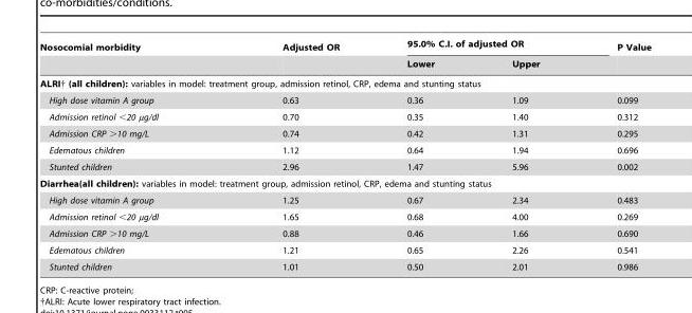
<table><thead><tr><td rowspan="2">Nosocomial morbidity</td><td rowspan="2">Adjusted OR</td><td colspan="2">95.0% C.I. of adjusted OR</td><td rowspan="2">P Value</td></tr><tr><td>Lower</td><td>Upper</td></tr></thead><tbody><tr><td colspan="5">ALRI† (all children): variables in model: treatment group, admission retinol, CRP, edema and stunting status</td></tr><tr><td>High dose vitamin A group</td><td>0.63</td><td>0.36</td><td>1.09</td><td>0.099</td></tr><tr><td>Admission retinol &lt;20 µg/dl</td><td>0.70</td><td>0.35</td><td>1.40</td><td>0.312</td></tr><tr><td>Admission CRP &gt;10 mg/L</td><td>0.74</td><td>0.42</td><td>1.31</td><td>0.295</td></tr><tr><td>Edematous children</td><td>1.12</td><td>0.64</td><td>1.94</td><td>0.696</td></tr><tr><td>Stunted children</td><td>2.96</td><td>1.47</td><td>5.96</td><td>0.002</td></tr><tr><td colspan="5">Diarrhea(all children): variables in model: treatment group, admission retinol, CRP, edema and stunting status</td></tr><tr><td>High dose vitamin A group</td><td>1.25</td><td>0.67</td><td>2.34</td><td>0.483</td></tr><tr><td>Admission retinol &lt;20 µg/dl</td><td>1.65</td><td>0.68</td><td>4.00</td><td>0.269</td></tr><tr><td>Admission CRP &gt;10 mg/L</td><td>0.88</td><td>0.46</td><td>1.66</td><td>0.690</td></tr><tr><td>Edematous children</td><td>1.21</td><td>0.65</td><td>2.26</td><td>0.541</td></tr><tr><td>Stunted children</td><td>1.01</td><td>0.50</td><td>2.01</td><td>0.986</td></tr></tbody></table>